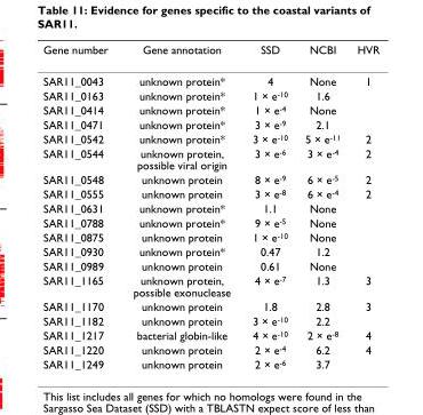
<table><thead><tr><td>Gene number</td><td>Gene annotation</td><td>SSD</td><td>NCBI</td><td>HVR</td></tr></thead><tbody><tr><td>SAR11_0043</td><td>unknown protein*</td><td>4</td><td>None</td><td>1</td></tr><tr><td>SAR11_0163</td><td>unknown protein*</td><td>1 × e<sup>-10</sup></td><td>1.6</td><td></td></tr><tr><td>SAR11_0414</td><td>unknown protein*</td><td>1 × e<sup>-4</sup></td><td>None</td><td></td></tr><tr><td>SAR11_0471</td><td>unknown protein*</td><td>3 × e<sup>-9</sup></td><td>2.1</td><td></td></tr><tr><td>SAR11_0542</td><td>unknown protein*</td><td>3 × e<sup>-10</sup></td><td>5 × e<sup>-11</sup></td><td>2</td></tr><tr><td>SAR11_0544</td><td>unknown protein, possible viral origin</td><td>3 × e<sup>-6</sup></td><td>3 × e<sup>-4</sup></td><td>2</td></tr><tr><td>SAR11_0548</td><td>unknown protein</td><td>8 × e<sup>-9</sup></td><td>6 × e<sup>-5</sup></td><td>2</td></tr><tr><td>SAR11_0555</td><td>unknown protein</td><td>3 × e<sup>-8</sup></td><td>6 × e<sup>-4</sup></td><td>2</td></tr><tr><td>SAR11_0631</td><td>unknown protein*</td><td>1.1</td><td>None</td><td></td></tr><tr><td>SAR11_0788</td><td>unknown protein*</td><td>9 × e<sup>-5</sup></td><td>None</td><td></td></tr><tr><td>SAR11_0875</td><td>unknown protein</td><td>1 × e<sup>-10</sup></td><td>None</td><td></td></tr><tr><td>SAR11_0930</td><td>unknown protein*</td><td>0.47</td><td>1.2</td><td></td></tr><tr><td>SAR11_0989</td><td>unknown protein</td><td>0.61</td><td>None</td><td></td></tr><tr><td>SAR11_1165</td><td>unknown protein, possible exonuclease</td><td>4 × e<sup>-7</sup></td><td>1.3</td><td>3</td></tr><tr><td>SAR11_1170</td><td>unknown protein</td><td>1.8</td><td>2.8</td><td>3</td></tr><tr><td>SAR11_1182</td><td>unknown protein</td><td>3 × e<sup>-10</sup></td><td>2.2</td><td></td></tr><tr><td>SAR11_1217</td><td>bacterial globin-like</td><td>4 × e<sup>-10</sup></td><td>2 × e<sup>-8</sup></td><td>4</td></tr><tr><td>SAR11_1220</td><td>unknown protein</td><td>2 × e<sup>-4</sup></td><td>6.2</td><td>4</td></tr><tr><td>SAR11_1249</td><td>unknown protein</td><td>2 × e<sup>-6</sup></td><td>3.7</td><td></td></tr></tbody></table>